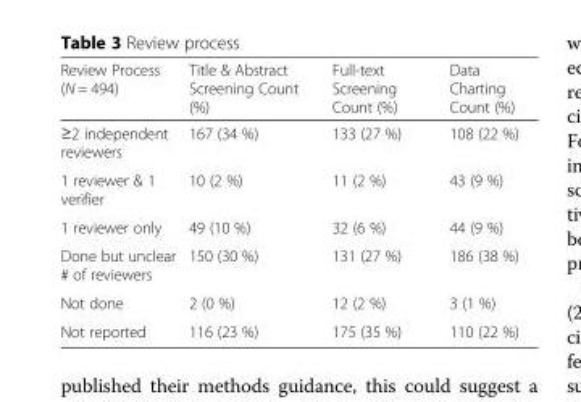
<table><thead><tr><td>Review Process (N = 494)</td><td>Title &amp; Abstract Screening Count (%)</td><td>Full-text Screening Count (%)</td><td>Data Charting Count (%)</td></tr></thead><tbody><tr><td>≥2 independent reviewers</td><td>167 (34 %)</td><td>133 (27 %)</td><td>108 (22 %)</td></tr><tr><td>1 reviewer &amp; 1 verifier</td><td>10 (2 %)</td><td>11 (2 %)</td><td>43 (9 %)</td></tr><tr><td>1 reviewer only</td><td>49 (10 %)</td><td>32 (6 %)</td><td>44 (9 %)</td></tr><tr><td>Done but unclear # of reviewers</td><td>150 (30 %)</td><td>131 (27 %)</td><td>186 (38 %)</td></tr><tr><td>Not done</td><td>2 (0 %)</td><td>12 (2 %)</td><td>3 (1 %)</td></tr><tr><td>Not reported</td><td>116 (23 %)</td><td>175 (35 %)</td><td>110 (22 %)</td></tr></tbody></table>